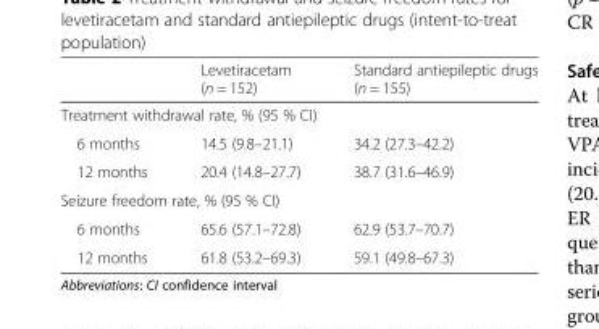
<table><thead><tr><td></td><td>Levetiracetam (n = 152)</td><td>Standard antiepileptic drugs (n = 155)</td></tr></thead><tbody><tr><td colspan="3">Treatment withdrawal rate, % (95 % CI)</td></tr><tr><td>6 months</td><td>14.5 (9.8–21.1)</td><td>34.2 (27.3–42.2)</td></tr><tr><td>12 months</td><td>20.4 (14.8–27.7)</td><td>38.7 (31.6–46.9)</td></tr><tr><td colspan="3">Seizure freedom rate, % (95 % CI)</td></tr><tr><td>6 months</td><td>65.6 (57.1–72.8)</td><td>62.9 (53.7–70.7)</td></tr><tr><td>12 months</td><td>61.8 (53.2–69.3)</td><td>59.1 (49.8–67.3)</td></tr></tbody></table>